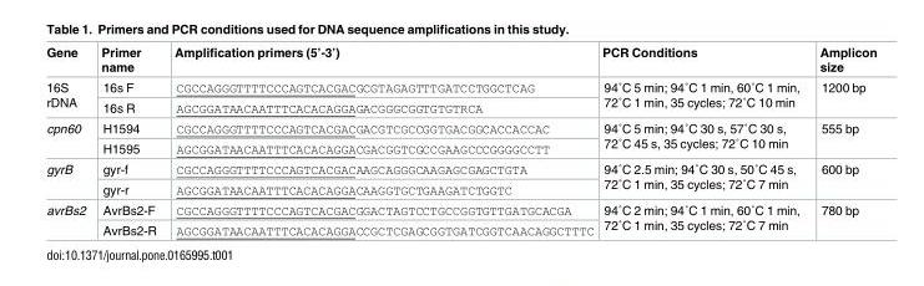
<table><thead><tr><td>Gene</td><td>Primer name</td><td>Amplification primers (5’-3’)</td><td>PCR Conditions</td><td>Amplicon size</td></tr></thead><tbody><tr><td rowspan="2">16S rDNA</td><td>16s F</td><td>CGCCAGGGTTTTCCCAGTCACGACGCGTAGAGTTTGATCCTGGCTCAG</td><td rowspan="2">94˚C 5 min; 94˚C 1 min, 60˚C 1 min, 72˚C 1 min, 35 cycles; 72˚C 10 min</td><td rowspan="2">1200 bp</td></tr><tr><td>16s R</td><td>AGCGGATAACAATTTCACACAGGAGACGGGCGGTGTGTRCA</td></tr><tr><td rowspan="2">cpn60</td><td>H1594</td><td>CGCCAGGGTTTTCCCAGTCACGACGACGTCGCCGGTGACGGCACCACCAC</td><td rowspan="2">94˚C 5 min; 94˚C 30 s, 57˚C 30 s, 72˚C 45 s, 35 cycles; 72˚C 10 min</td><td rowspan="2">555 bp</td></tr><tr><td>H1595</td><td>AGCGGATAACAATTTCACACAGGACGACGGTCGCCGAAGCCCGGGGCCTT</td></tr><tr><td rowspan="2">gyrB</td><td>gyr-f</td><td>CGCCAGGGTTTTCCCAGTCACGACAAGCAGGGCAAGAGCGAGCTGTA</td><td rowspan="2">94˚C 2.5 min; 94˚C 30 s, 50˚C 45 s, 72˚C 1 min, 35 cycles; 72˚C 7 min</td><td rowspan="2">600 bp</td></tr><tr><td>gyr-r</td><td>AGCGGATAACAATTTCACACAGGACAAGGTGCTGAAGATCTGGTC</td></tr><tr><td rowspan="2">avrBs2</td><td>AvrBs2-F</td><td>CGCCAGGGTTTTCCCAGTCACGACGGACTAGTCCTGCCGGTGTTGATGCACGA</td><td rowspan="2">94˚C 2 min; 94˚C 1 min, 60˚C 1 min, 72˚C 1 min, 35 cycles; 72˚C 7 min</td><td rowspan="2">780 bp</td></tr><tr><td>AvrBs2-R</td><td>AGCGGATAACAATTTCACACAGGACCGCTCGAGCGGTGATCGGTCAACAGGCTTTC</td></tr></tbody></table>